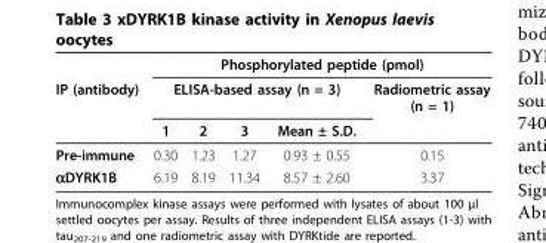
<table><thead><tr><td rowspan="3">IP (antibody)</td><td colspan="5">Phosphorylated peptide (pmol)</td></tr><tr><td colspan="4">ELISA-based assay (n = 3)</td><td rowspan="2">Radiometric assay (n = 1)</td></tr><tr><td>1</td><td>2</td><td>3</td><td>Mean ± S.D.</td></tr></thead><tbody><tr><td>Pre-immune</td><td>0.30</td><td>1.23</td><td>1.27</td><td>0.93 ± 0.55</td><td>0.15</td></tr><tr><td>αDYRK1B</td><td>6.19</td><td>8.19</td><td>11.34</td><td>8.57 ± 2.60</td><td>3.37</td></tr></tbody></table>